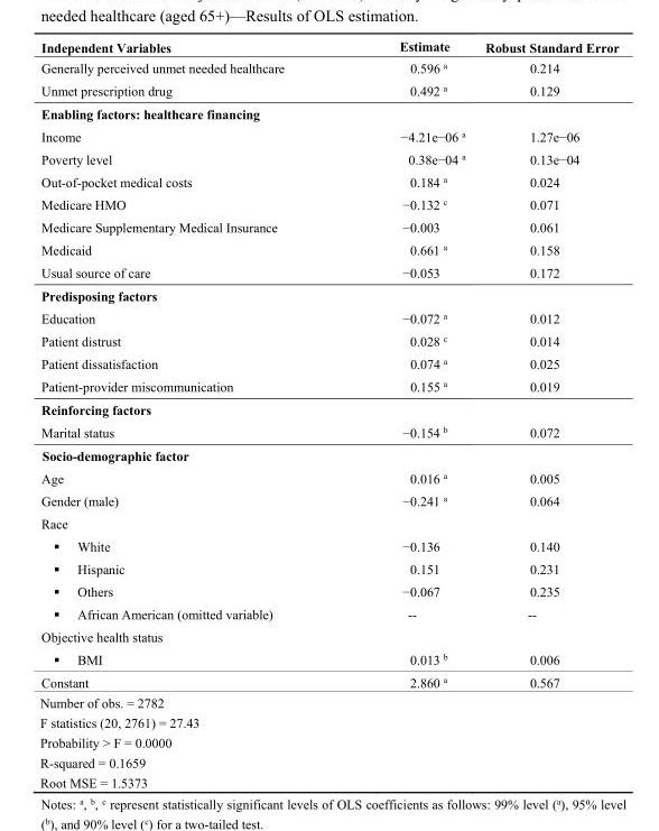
<table><thead><tr><td>Independent Variables</td><td>Estimate</td><td>Robust Standard Error</td></tr></thead><tbody><tr><td>Generally perceived unmet needed healthcare</td><td>0.596 <sup>a</sup></td><td>0.214</td></tr><tr><td>Unmet prescription drug</td><td>0.492 <sup>a</sup></td><td>0.129</td></tr><tr><td colspan="3">Enabling factors: healthcare financing</td></tr><tr><td>Income</td><td>−4.21e−06 <sup>a</sup></td><td>1.27e−06</td></tr><tr><td>Poverty level</td><td>0.38e−04 <sup>a</sup></td><td>0.13e−04</td></tr><tr><td>Out-of-pocket medical costs</td><td>0.184 <sup>a</sup></td><td>0.024</td></tr><tr><td>Medicare HMO</td><td>−0.132 <sup>c</sup></td><td>0.071</td></tr><tr><td>Medicare Supplementary Medical Insurance</td><td>−0.003</td><td>0.061</td></tr><tr><td>Medicaid</td><td>0.661 <sup>a</sup></td><td>0.158</td></tr><tr><td>Usual source of care</td><td>−0.053</td><td>0.172</td></tr><tr><td colspan="3">Predisposing factors</td></tr><tr><td>Education</td><td>−0.072 <sup>a</sup></td><td>0.012</td></tr><tr><td>Patient distrust</td><td>0.028 <sup>c</sup></td><td>0.014</td></tr><tr><td>Patient dissatisfaction</td><td>0.074 <sup>a</sup></td><td>0.025</td></tr><tr><td>Patient-provider miscommunication</td><td>0.155 <sup>a</sup></td><td>0.019</td></tr><tr><td colspan="3">Reinforcing factors</td></tr><tr><td>Marital status</td><td>−0.154 <sup>b</sup></td><td>0.072</td></tr><tr><td colspan="3">Socio-demographic factor</td></tr><tr><td>Age</td><td>0.016 <sup>a</sup></td><td>0.005</td></tr><tr><td>Gender (male)</td><td>−0.241 <sup>a</sup></td><td>0.064</td></tr><tr><td colspan="3">Race</td></tr><tr><td>▪ White</td><td>−0.136</td><td>0.140</td></tr><tr><td>▪ Hispanic</td><td>0.151</td><td>0.231</td></tr><tr><td>▪ Others</td><td>−0.067</td><td>0.235</td></tr><tr><td>▪ African American (omitted variable)</td><td>--</td><td>--</td></tr><tr><td colspan="3">Objective health status</td></tr><tr><td>▪ BMI</td><td>0.013 <sup>b</sup></td><td>0.006</td></tr><tr><td>Constant</td><td>2.860 <sup>a</sup></td><td>0.567</td></tr><tr><td colspan="3">Number of obs. = 2782</td></tr><tr><td colspan="3">F statistics (20, 2761) = 27.43</td></tr><tr><td colspan="3">Probability &gt; F = 0.0000</td></tr><tr><td colspan="3">R-squared = 0.1659</td></tr><tr><td>Root MSE = 1.5373</td><td></td><td></td></tr></tbody></table>